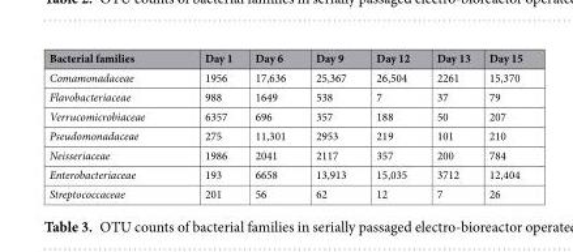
<table><thead><tr><td>Bacterial families</td><td>Day 1</td><td>Day 6</td><td>Day 9</td><td>Day 12</td><td>Day 13</td><td>Day 15</td></tr></thead><tbody><tr><td>Comamonadaceae</td><td>1956</td><td>17,636</td><td>25,367</td><td>26,504</td><td>2261</td><td>15,370</td></tr><tr><td>Flavobacteriaceae</td><td>988</td><td>1649</td><td>538</td><td>7</td><td>37</td><td>79</td></tr><tr><td>Verrucomicrobiaceae</td><td>6357</td><td>696</td><td>357</td><td>188</td><td>50</td><td>207</td></tr><tr><td>Pseudomonadaceae</td><td>275</td><td>11,301</td><td>2953</td><td>219</td><td>101</td><td>210</td></tr><tr><td>Neisseriaceae</td><td>1986</td><td>2041</td><td>2117</td><td>357</td><td>200</td><td>784</td></tr><tr><td>Enterobacteriaceae</td><td>193</td><td>6658</td><td>13,913</td><td>15,035</td><td>3712</td><td>12,404</td></tr><tr><td>Streptococcaceae</td><td>201</td><td>56</td><td>62</td><td>12</td><td>7</td><td>26</td></tr></tbody></table>